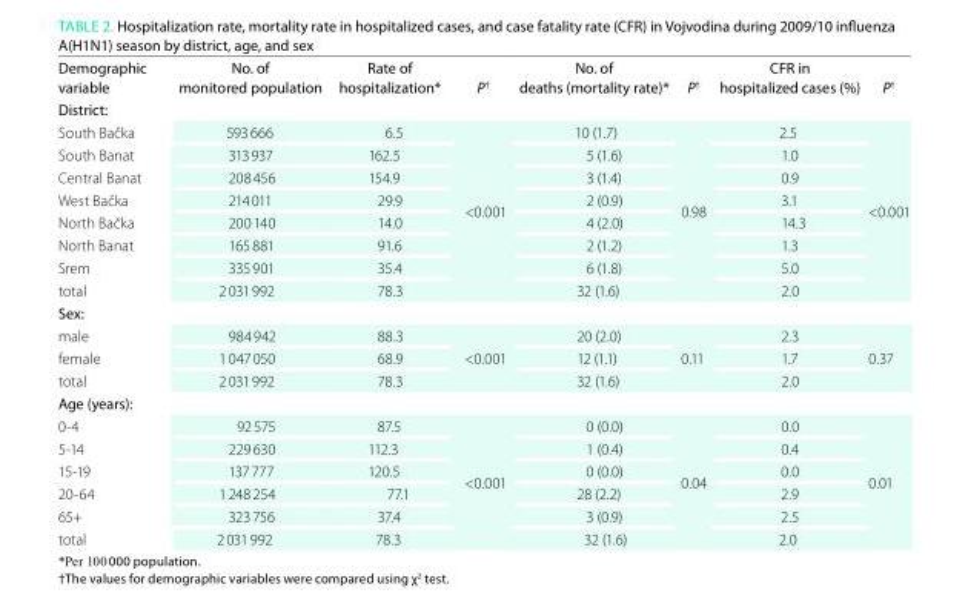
<table><thead><tr><td>Demographic variable</td><td>No. of monitored population</td><td>Rate of hospitalization*</td><td>P<sup>†</sup></td><td>No. of deaths (mortality rate)*</td><td>P<sup>†</sup></td><td>CFR in hospitalized cases (%)</td><td>P<sup>†</sup></td></tr></thead><tbody><tr><td colspan="8">District:</td></tr><tr><td>South Bačka</td><td>593 666</td><td>6.5</td><td rowspan="8">&lt;0.001</td><td>10 (1.7)</td><td rowspan="8">0.98</td><td>2.5</td><td rowspan="8">&lt;0.001</td></tr><tr><td>South Banat</td><td>313 937</td><td>162.5</td><td>5 (1.6)</td><td>1.0</td></tr><tr><td>Central Banat</td><td>208 456</td><td>154.9</td><td>3 (1.4)</td><td>0.9</td></tr><tr><td>West Bačka</td><td>214 011</td><td>29.9</td><td>2 (0.9)</td><td>3.1</td></tr><tr><td>North Bačka</td><td>200 140</td><td>14.0</td><td>4 (2.0)</td><td>14.3</td></tr><tr><td>North Banat</td><td>165 881</td><td>91.6</td><td>2 (1.2)</td><td>1.3</td></tr><tr><td>Srem</td><td>335 901</td><td>35.4</td><td>6 (1.8)</td><td>5.0</td></tr><tr><td>total</td><td>2 031 992</td><td>78.3</td><td>32 (1.6)</td><td>2.0</td></tr><tr><td colspan="8">Sex:</td></tr><tr><td>male</td><td>984 942</td><td>88.3</td><td rowspan="3">&lt;0.001</td><td>20 (2.0)</td><td rowspan="3">0.11</td><td>2.3</td><td rowspan="3">0.37</td></tr><tr><td>female</td><td>1 047 050</td><td>68.9</td><td>12 (1.1)</td><td>1.7</td></tr><tr><td>total</td><td>2 031 992</td><td>78.3</td><td>32 (1.6)</td><td>2.0</td></tr><tr><td colspan="8">Age (years):</td></tr><tr><td>0-4</td><td>92 575</td><td>87.5</td><td rowspan="6">&lt;0.001</td><td>0 (0.0)</td><td rowspan="6">0.04</td><td>0.0</td><td rowspan="6">0.01</td></tr><tr><td>5-14</td><td>229 630</td><td>112.3</td><td>1 (0.4)</td><td>0.4</td></tr><tr><td>15-19</td><td>137 777</td><td>120.5</td><td>0 (0.0)</td><td>0.0</td></tr><tr><td>20-64</td><td>1 248 254</td><td>77.1</td><td>28 (2.2)</td><td>2.9</td></tr><tr><td>65+</td><td>323 756</td><td>37.4</td><td>3 (0.9)</td><td>2.5</td></tr><tr><td>total</td><td>2 031 992</td><td>78.3</td><td>32 (1.6)</td><td>2.0</td></tr></tbody></table>